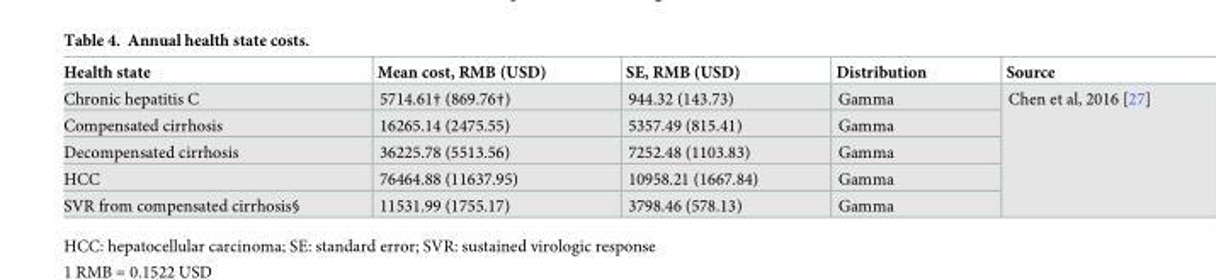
<table><thead><tr><td>Health state</td><td>Mean cost, RMB (USD)</td><td>SE, RMB (USD)</td><td>Distribution</td><td>Source</td></tr></thead><tbody><tr><td>Chronic hepatitis C</td><td>5714.61† (869.76†)</td><td>944.32 (143.73)</td><td>Gamma</td><td rowspan="5">Chen et al, 2016 [27]</td></tr><tr><td>Compensated cirrhosis</td><td>16265.14 (2475.55)</td><td>5357.49 (815.41)</td><td>Gamma</td></tr><tr><td>Decompensated cirrhosis</td><td>36225.78 (5513.56)</td><td>7252.48 (1103.83)</td><td>Gamma</td></tr><tr><td>HCC</td><td>76464.88 (11637.95)</td><td>10958.21 (1667.84)</td><td>Gamma</td></tr><tr><td>SVR from compensated cirrhosis§</td><td>11531.99 (1755.17)</td><td>3798.46 (578.13)</td><td>Gamma</td></tr></tbody></table>